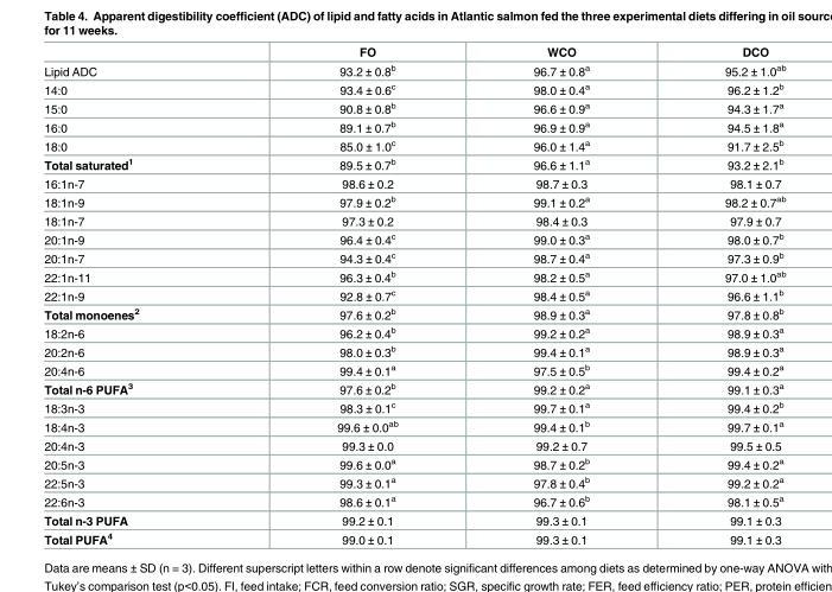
<table><thead><tr><td></td><td>FO</td><td>WCO</td><td>DCO</td></tr></thead><tbody><tr><td>Lipid ADC</td><td>93.2 ± 0.8<sup>b</sup></td><td>96.7 ± 0.8<sup>a</sup></td><td>95.2 ± 1.0<sup>ab</sup></td></tr><tr><td>14:0</td><td>93.4 ± 0.6<sup>c</sup></td><td>98.0 ± 0.4<sup>a</sup></td><td>96.2 ± 1.2<sup>b</sup></td></tr><tr><td>15:0</td><td>90.8 ± 0.8<sup>b</sup></td><td>96.6 ± 0.9<sup>a</sup></td><td>94.3 ± 1.7<sup>a</sup></td></tr><tr><td>16:0</td><td>89.1 ± 0.7<sup>b</sup></td><td>96.9 ± 0.9<sup>a</sup></td><td>94.5 ± 1.8<sup>a</sup></td></tr><tr><td>18:0</td><td>85.0 ± 1.0<sup>c</sup></td><td>96.0 ± 1.4<sup>a</sup></td><td>91.7 ± 2.5<sup>b</sup></td></tr><tr><td>Total saturated<sup>1</sup></td><td>89.5 ± 0.7<sup>b</sup></td><td>96.6 ± 1.1<sup>a</sup></td><td>93.2 ± 2.1<sup>b</sup></td></tr><tr><td>16:1n-7</td><td>98.6 ± 0.2</td><td>98.7 ± 0.3</td><td>98.1 ± 0.7</td></tr><tr><td>18:1n-9</td><td>97.9 ± 0.2<sup>b</sup></td><td>99.1 ± 0.2<sup>a</sup></td><td>98.2 ± 0.7<sup>ab</sup></td></tr><tr><td>18:1n-7</td><td>97.3 ± 0.2</td><td>98.4 ± 0.3</td><td>97.9 ± 0.7</td></tr><tr><td>20:1n-9</td><td>96.4 ± 0.4<sup>c</sup></td><td>99.0 ± 0.3<sup>a</sup></td><td>98.0 ± 0.7<sup>b</sup></td></tr><tr><td>20:1n-7</td><td>94.3 ± 0.4<sup>c</sup></td><td>98.7 ± 0.4<sup>a</sup></td><td>97.3 ± 0.9<sup>b</sup></td></tr><tr><td>22:1n-11</td><td>96.3 ± 0.4<sup>b</sup></td><td>98.2 ± 0.5<sup>a</sup></td><td>97.0 ± 1.0<sup>ab</sup></td></tr><tr><td>22:1n-9</td><td>92.8 ± 0.7<sup>c</sup></td><td>98.4 ± 0.5<sup>a</sup></td><td>96.6 ± 1.1<sup>b</sup></td></tr><tr><td>Total monoenes<sup>2</sup></td><td>97.6 ± 0.2<sup>b</sup></td><td>98.9 ± 0.3<sup>a</sup></td><td>97.8 ± 0.8<sup>b</sup></td></tr><tr><td>18:2n-6</td><td>96.2 ± 0.4<sup>b</sup></td><td>99.2 ± 0.2<sup>a</sup></td><td>98.9 ± 0.3<sup>a</sup></td></tr><tr><td>20:2n-6</td><td>98.0 ± 0.3<sup>b</sup></td><td>99.4 ± 0.1<sup>a</sup></td><td>98.9 ± 0.3<sup>a</sup></td></tr><tr><td>20:4n-6</td><td>99.4 ± 0.1<sup>a</sup></td><td>97.5 ± 0.5<sup>b</sup></td><td>99.4 ± 0.2<sup>a</sup></td></tr><tr><td>Total n-6 PUFA<sup>3</sup></td><td>97.6 ± 0.2<sup>b</sup></td><td>99.2 ± 0.2<sup>a</sup></td><td>99.1 ± 0.3<sup>a</sup></td></tr><tr><td>18:3n-3</td><td>98.3 ± 0.1<sup>c</sup></td><td>99.7 ± 0.1<sup>a</sup></td><td>99.4 ± 0.2<sup>b</sup></td></tr><tr><td>18:4n-3</td><td>99.6 ± 0.0<sup>ab</sup></td><td>99.4 ± 0.1<sup>b</sup></td><td>99.7 ± 0.1<sup>a</sup></td></tr><tr><td>20:4n-3</td><td>99.3 ± 0.0</td><td>99.2 ± 0.7</td><td>99.5 ± 0.5</td></tr><tr><td>20:5n-3</td><td>99.6 ± 0.0<sup>a</sup></td><td>98.7 ± 0.2<sup>b</sup></td><td>99.4 ± 0.2<sup>a</sup></td></tr><tr><td>22:5n-3</td><td>99.3 ± 0.1<sup>a</sup></td><td>97.8 ± 0.4<sup>b</sup></td><td>99.2 ± 0.2<sup>a</sup></td></tr><tr><td>22:6n-3</td><td>98.6 ± 0.1<sup>a</sup></td><td>96.7 ± 0.6<sup>b</sup></td><td>98.1 ± 0.5<sup>a</sup></td></tr><tr><td>Total n-3 PUFA</td><td>99.2 ± 0.1</td><td>99.3 ± 0.1</td><td>99.1 ± 0.3</td></tr><tr><td>Total PUFA<sup>4</sup></td><td>99.0 ± 0.1</td><td>99.3 ± 0.1</td><td>99.1 ± 0.3</td></tr></tbody></table>